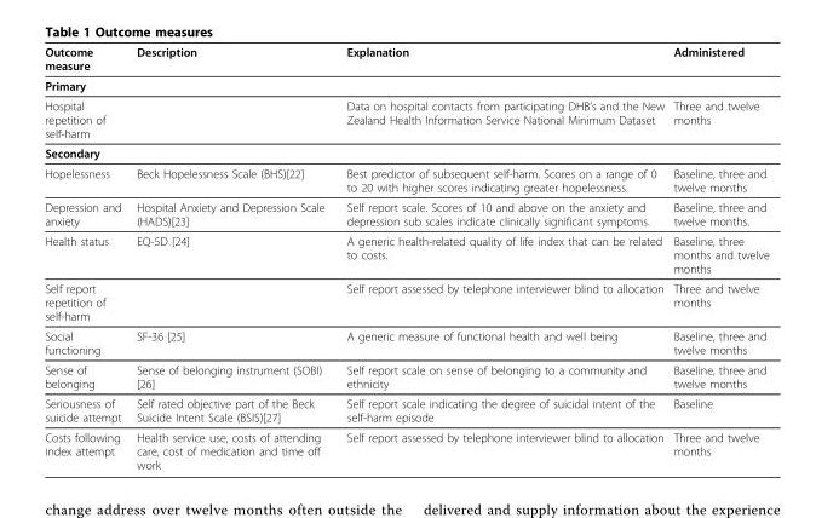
<table><thead><tr><td>Outcome measure</td><td>Description</td><td>Explanation</td><td>Administered</td></tr></thead><tbody><tr><td colspan="4">Primary</td></tr><tr><td>Hospital repetition of self-harm</td><td></td><td>Data on hospital contacts from participating DHB’s and the New Zealand Health Information Service National Minimum Dataset</td><td>Three and twelve months</td></tr><tr><td colspan="4">Secondary</td></tr><tr><td>Hopelessness</td><td>Beck Hopelessness Scale (BHS)[22]</td><td>Best predictor of subsequent self-harm. Scores on a range of 0 to 20 with higher scores indicating greater hopelessness.</td><td>Baseline, three and twelve months</td></tr><tr><td>Depression and anxiety</td><td>Hospital Anxiety and Depression Scale (HADS)[23]</td><td>Self report scale. Scores of 10 and above on the anxiety and depression sub scales indicate clinically significant symptoms.</td><td>Baseline, three and twelve months.</td></tr><tr><td>Health status</td><td>EQ-5D [24]</td><td>A generic health-related quality of life index that can be related to costs.</td><td>Baseline, three months and twelve months</td></tr><tr><td>Self report repetition of self-harm</td><td></td><td>Self report assessed by telephone interviewer blind to allocation</td><td>Three and twelve months</td></tr><tr><td>Social functioning</td><td>SF-36 [25]</td><td>A generic measure of functional health and well being</td><td>Baseline, three and twelve months</td></tr><tr><td>Sense of belonging</td><td>Sense of belonging instrument (SOBI) [26]</td><td>Self report scale on sense of belonging to a community and ethnicity</td><td>Baseline, three and twelve months</td></tr><tr><td>Seriousness of suicide attempt</td><td>Self rated objective part of the Beck Suicide Intent Scale (BSIS)[27]</td><td>Self report scale indicating the degree of suicidal intent of the self-harm episode</td><td>Baseline</td></tr><tr><td>Costs following index attempt</td><td>Health service use, costs of attending care, cost of medication and time off work</td><td>Self report assessed by telephone interviewer blind to allocation</td><td>Three and twelve months</td></tr></tbody></table>